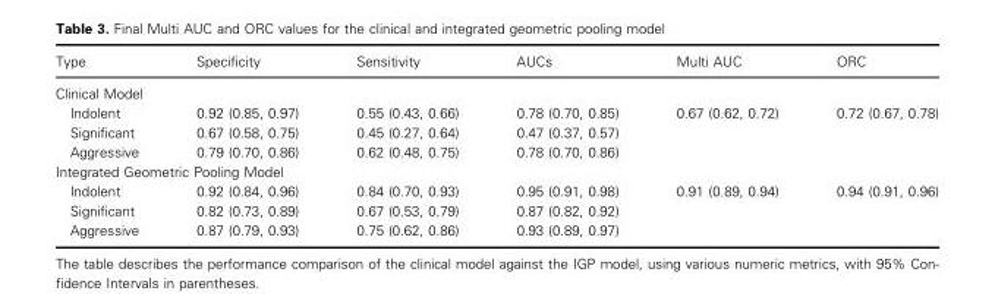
<table><thead><tr><td>Type</td><td>Specificity</td><td>Sensitivity</td><td>AUCs</td><td>Multi AUC</td><td>ORC</td></tr></thead><tbody><tr><td colspan="6">Clinical Model</td></tr><tr><td>Indolent</td><td>0.92 (0.85, 0.97)</td><td>0.55 (0.43, 0.66)</td><td>0.78 (0.70, 0.85)</td><td rowspan="3">0.67 (0.62, 0.72)</td><td rowspan="3">0.72 (0.67, 0.78)</td></tr><tr><td>Significant</td><td>0.67 (0.58, 0.75)</td><td>0.45 (0.27, 0.64)</td><td>0.47 (0.37, 0.57)</td></tr><tr><td>Aggressive</td><td>0.79 (0.70, 0.86)</td><td>0.62 (0.48, 0.75)</td><td>0.78 (0.70, 0.86)</td></tr><tr><td colspan="6">Integrated Geometric Pooling Model</td></tr><tr><td>Indolent</td><td>0.92 (0.84, 0.96)</td><td>0.84 (0.70, 0.93)</td><td>0.95 (0.91, 0.98)</td><td rowspan="3">0.91 (0.89, 0.94)</td><td rowspan="3">0.94 (0.91, 0.96)</td></tr><tr><td>Significant</td><td>0.82 (0.73, 0.89)</td><td>0.67 (0.53, 0.79)</td><td>0.87 (0.82, 0.92)</td></tr><tr><td>Aggressive</td><td>0.87 (0.79, 0.93)</td><td>0.75 (0.62, 0.86)</td><td>0.93 (0.89, 0.97)</td></tr></tbody></table>